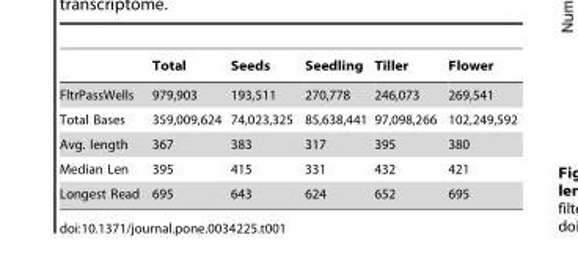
<table><thead><tr><td></td><td>Total</td><td>Seeds</td><td>Seedling</td><td>Tiller</td><td>Flower</td></tr></thead><tbody><tr><td>FltrPassWells</td><td>979,903</td><td>193,511</td><td>270,778</td><td>246,073</td><td>269,541</td></tr><tr><td>Total Bases</td><td>359,009,624</td><td>74,023,325</td><td>85,638,441</td><td>97,098,266</td><td>102,249,592</td></tr><tr><td>Avg. length</td><td>367</td><td>383</td><td>317</td><td>395</td><td>380</td></tr><tr><td>Median Len</td><td>395</td><td>415</td><td>331</td><td>432</td><td>421</td></tr><tr><td>Longest Read</td><td>695</td><td>643</td><td>624</td><td>652</td><td>695</td></tr></tbody></table>